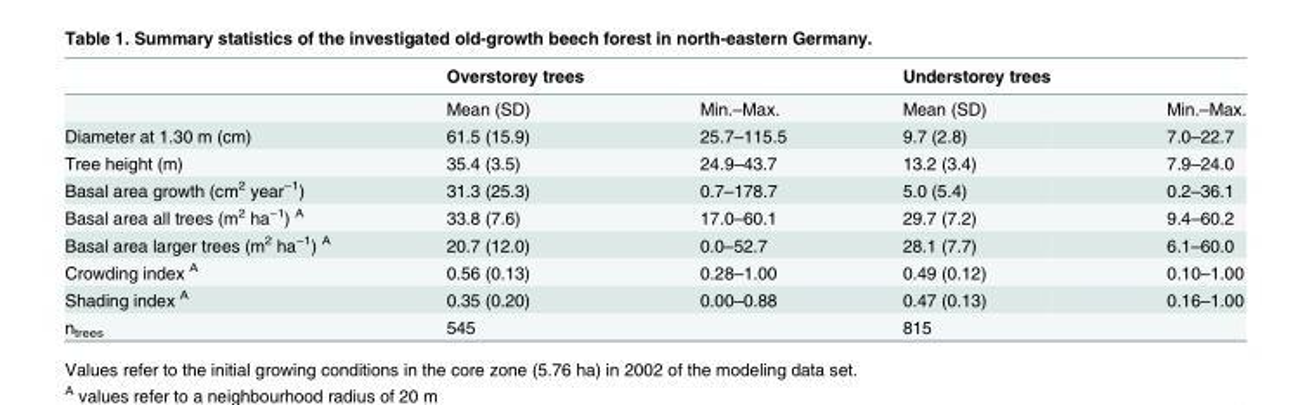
<table><thead><tr><td></td><td>Overstorey trees</td><td></td><td>Understorey trees</td><td></td></tr></thead><tbody><tr><td></td><td>Mean (SD)</td><td>Min.–Max.</td><td>Mean (SD)</td><td>Min.–Max.</td></tr><tr><td>Diameter at 1.30 m (cm)</td><td>61.5 (15.9)</td><td>25.7–115.5</td><td>9.7 (2.8)</td><td>7.0–22.7</td></tr><tr><td>Tree height (m)</td><td>35.4 (3.5)</td><td>24.9–43.7</td><td>13.2 (3.4)</td><td>7.9–24.0</td></tr><tr><td>Basal area growth (cm<sup>2</sup> year<sup>−1</sup>)</td><td>31.3 (25.3)</td><td>0.7–178.7</td><td>5.0 (5.4)</td><td>0.2–36.1</td></tr><tr><td>Basal area all trees (m<sup>2</sup> ha<sup>−1</sup>) <sup>A</sup></td><td>33.8 (7.6)</td><td>17.0–60.1</td><td>29.7 (7.2)</td><td>9.4–60.2</td></tr><tr><td>Basal area larger trees (m<sup>2</sup> ha<sup>−1</sup>) <sup>A</sup></td><td>20.7 (12.0)</td><td>0.0–52.7</td><td>28.1 (7.7)</td><td>6.1–60.0</td></tr><tr><td>Crowding index <sup>A</sup></td><td>0.56 (0.13)</td><td>0.28–1.00</td><td>0.49 (0.12)</td><td>0.10–1.00</td></tr><tr><td>Shading index <sup>A</sup></td><td>0.35 (0.20)</td><td>0.00–0.88</td><td>0.47 (0.13)</td><td>0.16–1.00</td></tr><tr><td>n<sub>trees</sub></td><td>545</td><td></td><td>815</td><td></td></tr></tbody></table>